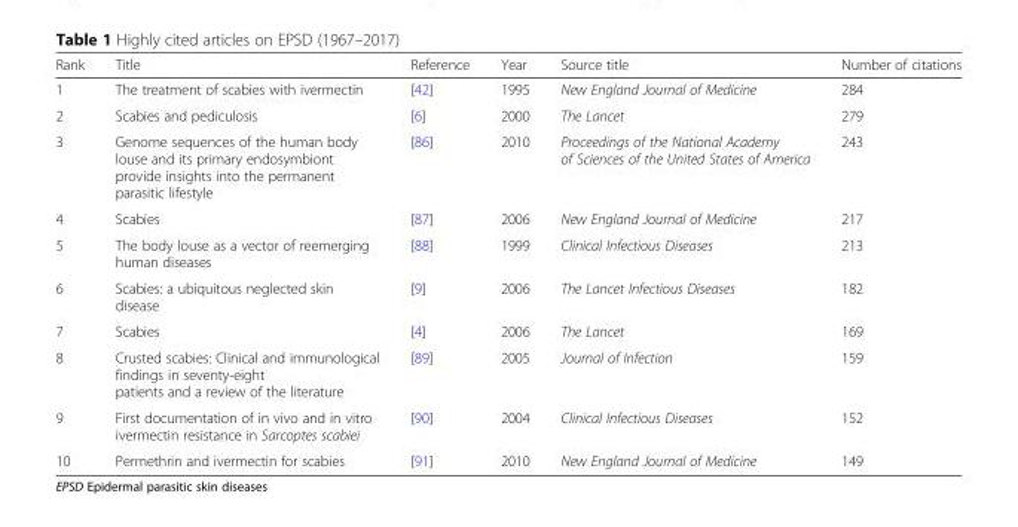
<table><thead><tr><td>Rank</td><td>Title</td><td>Reference</td><td>Year</td><td>Source title</td><td>Number of citations</td></tr></thead><tbody><tr><td>1</td><td>The treatment of scabies with ivermectin</td><td>[42]</td><td>1995</td><td>New England Journal of Medicine</td><td>284</td></tr><tr><td>2</td><td>Scabies and pediculosis</td><td>[6]</td><td>2000</td><td>The Lancet</td><td>279</td></tr><tr><td>3</td><td>Genome sequences of the human body louse and its primary endosymbiont provide insights into the permanent parasitic lifestyle</td><td>[86]</td><td>2010</td><td>Proceedings of the National Academy of Sciences of the United States of America</td><td>243</td></tr><tr><td>4</td><td>Scabies</td><td>[87]</td><td>2006</td><td>New England Journal of Medicine</td><td>217</td></tr><tr><td>5</td><td>The body louse as a vector of reemerging human diseases</td><td>[88]</td><td>1999</td><td>Clinical Infectious Diseases</td><td>213</td></tr><tr><td>6</td><td>Scabies: a ubiquitous neglected skin disease</td><td>[9]</td><td>2006</td><td>The Lancet Infectious Diseases</td><td>182</td></tr><tr><td>7</td><td>Scabies</td><td>[4]</td><td>2006</td><td>The Lancet</td><td>169</td></tr><tr><td>8</td><td>Crusted scabies: Clinical and immunological findings in seventy-eight patients and a review of the literature</td><td>[89]</td><td>2005</td><td>Journal of Infection</td><td>159</td></tr><tr><td>9</td><td>First documentation of in vivo and in vitro ivermectin resistance in Sarcoptes scabiei</td><td>[90]</td><td>2004</td><td>Clinical Infectious Diseases</td><td>152</td></tr><tr><td>10</td><td>Permethrin and ivermectin for scabies</td><td>[91]</td><td>2010</td><td>New England Journal of Medicine</td><td>149</td></tr></tbody></table>